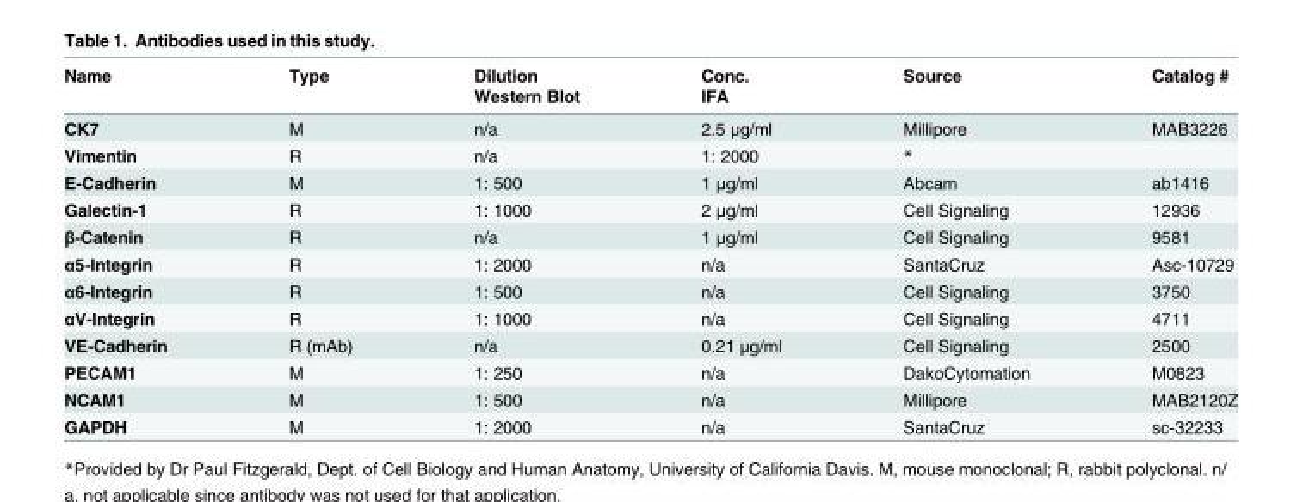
<table><thead><tr><td rowspan="2">Name</td><td rowspan="2">Type</td><td rowspan="2">Dilution Western Blot</td><td rowspan="2">Conc. IFA</td><td rowspan="2">Source</td><td rowspan="2">Catalog #</td></tr><tr></tr></thead><tbody><tr><td>CK7</td><td>M</td><td>n/a</td><td>2.5 μg/ml</td><td>Millipore</td><td>MAB3226</td></tr><tr><td>Vimentin</td><td>R</td><td>n/a</td><td>1: 2000</td><td>*</td><td></td></tr><tr><td>E-Cadherin</td><td>M</td><td>1: 500</td><td>1 μg/ml</td><td>Abcam</td><td>ab1416</td></tr><tr><td>Galectin-1</td><td>R</td><td>1: 1000</td><td>2 μg/ml</td><td>Cell Signaling</td><td>12936</td></tr><tr><td>β-Catenin</td><td>R</td><td>n/a</td><td>1 μg/ml</td><td>Cell Signaling</td><td>9581</td></tr><tr><td>α5-Integrin</td><td>R</td><td>1: 2000</td><td>n/a</td><td>SantaCruz</td><td>Asc-10729</td></tr><tr><td>α6-Integrin</td><td>R</td><td>1: 500</td><td>n/a</td><td>Cell Signaling</td><td>3750</td></tr><tr><td>αV-Integrin</td><td>R</td><td>1: 1000</td><td>n/a</td><td>Cell Signaling</td><td>4711</td></tr><tr><td>VE-Cadherin</td><td>R (mAb)</td><td>n/a</td><td>0.21 μg/ml</td><td>Cell Signaling</td><td>2500</td></tr><tr><td>PECAM1</td><td>M</td><td>1: 250</td><td>n/a</td><td>DakoCytomation</td><td>M0823</td></tr><tr><td>NCAM1</td><td>M</td><td>1: 500</td><td>n/a</td><td>Millipore</td><td>MAB2120Z</td></tr><tr><td>GAPDH</td><td>M</td><td>1: 2000</td><td>n/a</td><td>SantaCruz</td><td>sc-32233</td></tr></tbody></table>